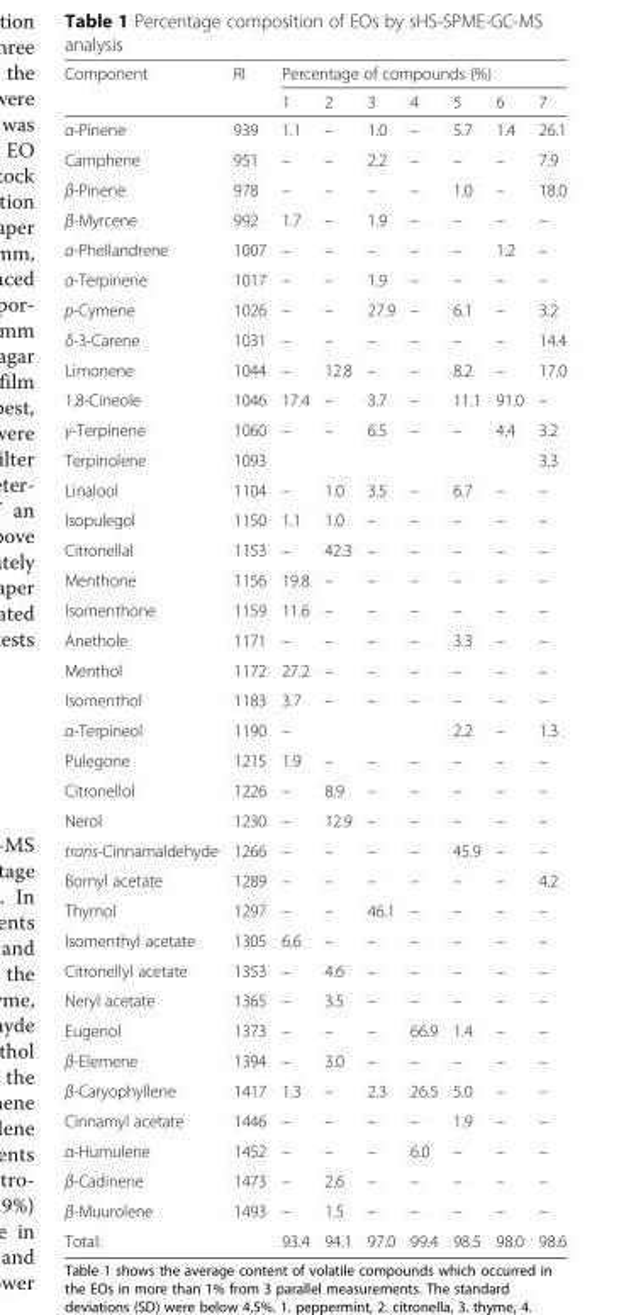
<table><thead><tr><td rowspan="2">Component</td><td rowspan="2">RI</td><td colspan="7">Percentage of compounds (%)</td></tr><tr><td>1</td><td>2</td><td>3</td><td>4</td><td>5</td><td>6</td><td>7</td></tr></thead><tbody><tr><td>α-Pinene</td><td>939</td><td>1.1</td><td>–</td><td>1.0</td><td>–</td><td>5.7</td><td>1.4</td><td>26.1</td></tr><tr><td>Camphene</td><td>951</td><td>–</td><td>–</td><td>2.2</td><td>–</td><td>–</td><td>–</td><td>7.9</td></tr><tr><td>β-Pinene</td><td>978</td><td>–</td><td>–</td><td>–</td><td>–</td><td>1.0</td><td>–</td><td>18.0</td></tr><tr><td>β-Myrcene</td><td>992</td><td>1.7</td><td>–</td><td>1.9</td><td>–</td><td>–</td><td>–</td><td>–</td></tr><tr><td>α-Phellandrene</td><td>1007</td><td>–</td><td>–</td><td>–</td><td>–</td><td>–</td><td>1.2</td><td>–</td></tr><tr><td>α-Terpinene</td><td>1017</td><td>–</td><td>–</td><td>1.9</td><td>–</td><td>–</td><td>–</td><td>–</td></tr><tr><td>p-Cymene</td><td>1026</td><td>–</td><td>–</td><td>27.9</td><td>–</td><td>6.1</td><td>–</td><td>3.2</td></tr><tr><td>δ-3-Carene</td><td>1031</td><td>–</td><td>–</td><td>–</td><td>–</td><td>–</td><td>–</td><td>14.4</td></tr><tr><td>Limonene</td><td>1044</td><td>–</td><td>12.8</td><td>–</td><td>–</td><td>8.2</td><td>–</td><td>17.0</td></tr><tr><td>1,8-Cineole</td><td>1046</td><td>17.4</td><td>–</td><td>3.7</td><td>–</td><td>11.1</td><td>91.0</td><td>–</td></tr><tr><td>γ-Terpinene</td><td>1060</td><td>–</td><td>–</td><td>6.5</td><td>–</td><td>–</td><td>4.4</td><td>3.2</td></tr><tr><td>Terpinolene</td><td>1093</td><td></td><td></td><td></td><td></td><td></td><td></td><td>3.3</td></tr><tr><td>Linalool</td><td>1104</td><td>–</td><td>1.0</td><td>3.5</td><td>–</td><td>6.7</td><td>–</td><td>–</td></tr><tr><td>Isopulegol</td><td>1150</td><td>1.1</td><td>1.0</td><td>–</td><td>–</td><td>–</td><td>–</td><td>–</td></tr><tr><td>Citronellal</td><td>1153</td><td>–</td><td>42.3</td><td>–</td><td>–</td><td>–</td><td>–</td><td>–</td></tr><tr><td>Menthone</td><td>1156</td><td>19.8</td><td>–</td><td>–</td><td>–</td><td>–</td><td>–</td><td>–</td></tr><tr><td>Isomenthone</td><td>1159</td><td>11.6</td><td>–</td><td>–</td><td>–</td><td>–</td><td>–</td><td>–</td></tr><tr><td>Anethole</td><td>1171</td><td>–</td><td>–</td><td>–</td><td>–</td><td>3.3</td><td>–</td><td>–</td></tr><tr><td>Menthol</td><td>1172</td><td>27.2</td><td>–</td><td>–</td><td>–</td><td>–</td><td>–</td><td>–</td></tr><tr><td>Isomenthol</td><td>1183</td><td>3.7</td><td>–</td><td>–</td><td>–</td><td>–</td><td>–</td><td>–</td></tr><tr><td>α-Terpineol</td><td>1190</td><td>–</td><td></td><td></td><td></td><td>2.2</td><td>–</td><td>1.3</td></tr><tr><td>Pulegone</td><td>1215</td><td>1.9</td><td>–</td><td>–</td><td>–</td><td>–</td><td>–</td><td>–</td></tr><tr><td>Citronellol</td><td>1226</td><td>–</td><td>8.9</td><td>–</td><td>–</td><td>–</td><td>–</td><td>–</td></tr><tr><td>Nerol</td><td>1230</td><td>–</td><td>12.9</td><td>–</td><td>–</td><td>–</td><td>–</td><td>–</td></tr><tr><td>trans-Cinnamaldehyde</td><td>1266</td><td>–</td><td>–</td><td>–</td><td>–</td><td>45.9</td><td>–</td><td>–</td></tr><tr><td>Bornyl acetate</td><td>1289</td><td>–</td><td>–</td><td>–</td><td>–</td><td>–</td><td>–</td><td>4.2</td></tr><tr><td>Thymol</td><td>1297</td><td>–</td><td>–</td><td>46.1</td><td>–</td><td>–</td><td>–</td><td>–</td></tr><tr><td>Isomenthyl acetate</td><td>1305</td><td>6.6</td><td>–</td><td>–</td><td>–</td><td>–</td><td>–</td><td>–</td></tr><tr><td>Citronellyl acetate</td><td>1353</td><td>–</td><td>4.6</td><td>–</td><td>–</td><td>–</td><td>–</td><td>–</td></tr><tr><td>Neryl acetate</td><td>1365</td><td>–</td><td>3.5</td><td>–</td><td>–</td><td>–</td><td>–</td><td>–</td></tr><tr><td>Eugenol</td><td>1373</td><td>–</td><td>–</td><td>–</td><td>66.9</td><td>1.4</td><td>–</td><td>–</td></tr><tr><td>β-Elemene</td><td>1394</td><td>–</td><td>3.0</td><td>–</td><td>–</td><td>–</td><td>–</td><td>–</td></tr><tr><td>β-Caryophyllene</td><td>1417</td><td>1.3</td><td>–</td><td>2.3</td><td>26.5</td><td>5.0</td><td>–</td><td>–</td></tr><tr><td>Cinnamyl acetate</td><td>1446</td><td>–</td><td>–</td><td>–</td><td>–</td><td>1.9</td><td>–</td><td>–</td></tr><tr><td>α-Humulene</td><td>1452</td><td>–</td><td>–</td><td>–</td><td>6.0</td><td>–</td><td>–</td><td>–</td></tr><tr><td>β-Cadinene</td><td>1473</td><td>–</td><td>2.6</td><td>–</td><td>–</td><td>–</td><td>–</td><td>–</td></tr><tr><td>β-Muurolene</td><td>1493</td><td>–</td><td>1.5</td><td>–</td><td>–</td><td>–</td><td>–</td><td>–</td></tr><tr><td>Total:</td><td></td><td>93.4</td><td>94.1</td><td>97.0</td><td>99.4</td><td>98.5</td><td>98.0</td><td>98.6</td></tr></tbody></table>